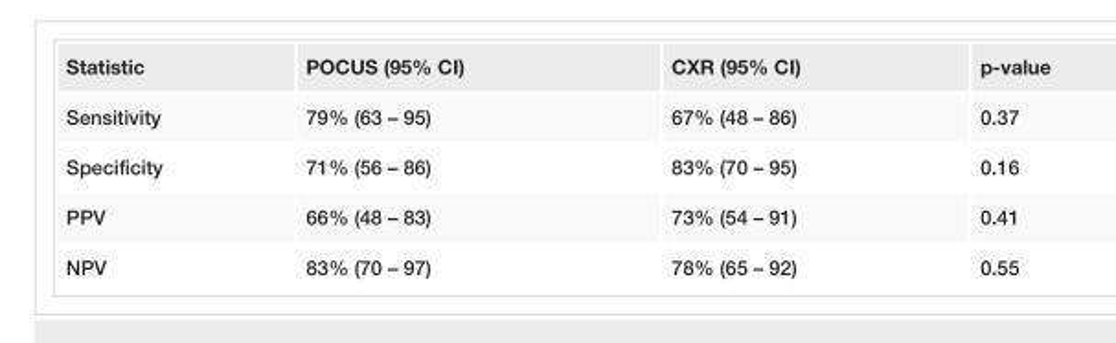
<table><tbody><tr><td>Statistic</td><td>POCUS (95% CI)</td><td>CXR (95% CI)</td><td>p-value</td></tr><tr><td>Sensitivity</td><td>79% (63 – 95)</td><td>67% (48 – 86)</td><td>0.37</td></tr><tr><td>Specificity</td><td>71% (56 – 86)</td><td>83% (70 – 95)</td><td>0.16</td></tr><tr><td>PPV</td><td>66% (48 – 83)</td><td>73% (54 – 91)</td><td>0.41</td></tr><tr><td>NPV</td><td>83% (70 – 97)</td><td>78% (65 – 92)</td><td>0.55</td></tr></tbody></table>